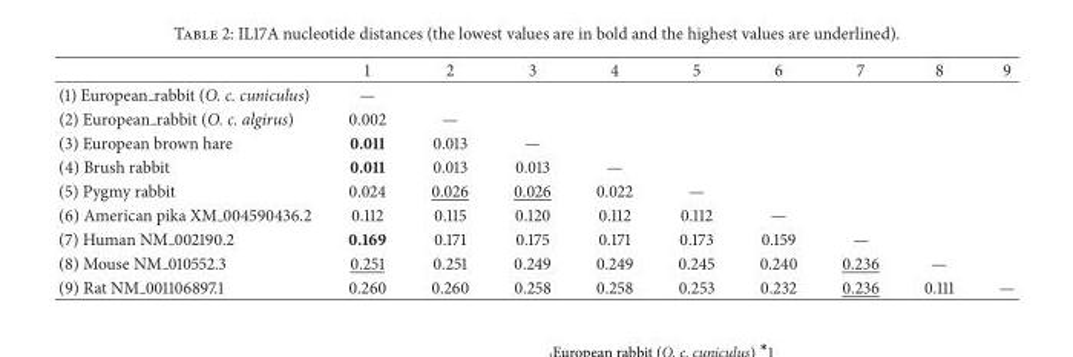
<table><thead><tr><td></td><td>1</td><td>2</td><td>3</td><td>4</td><td>5</td><td>6</td><td>7</td><td>8</td><td>9</td></tr></thead><tbody><tr><td>(1) European rabbit (O. c. cuniculus)</td><td>—</td><td></td><td></td><td></td><td></td><td></td><td></td><td></td><td></td></tr><tr><td>(2) European rabbit (O. c. algirus)</td><td>0.002</td><td>—</td><td></td><td></td><td></td><td></td><td></td><td></td><td></td></tr><tr><td>(3) European brown hare</td><td>0.011</td><td>0.013</td><td>—</td><td></td><td></td><td></td><td></td><td></td><td></td></tr><tr><td>(4) Brush rabbit</td><td>0.011</td><td>0.013</td><td>0.013</td><td>—</td><td></td><td></td><td></td><td></td><td></td></tr><tr><td>(5) Pygmy rabbit</td><td>0.024</td><td>0.026</td><td>0.026</td><td>0.022</td><td>—</td><td></td><td></td><td></td><td></td></tr><tr><td>(6) American pika XM 004590436.2</td><td>0.112</td><td>0.115</td><td>0.120</td><td>0.112</td><td>0.112</td><td>—</td><td></td><td></td><td></td></tr><tr><td>(7) Human NM 002190.2</td><td>0.169</td><td>0.171</td><td>0.175</td><td>0.171</td><td>0.173</td><td>0.159</td><td>—</td><td></td><td></td></tr><tr><td>(8) Mouse NM 010552.3</td><td>0.251</td><td>0.251</td><td>0.249</td><td>0.249</td><td>0.245</td><td>0.240</td><td>0.236</td><td>—</td><td></td></tr><tr><td>(9) Rat NM 001106897.1</td><td>0.260</td><td>0.260</td><td>0.258</td><td>0.258</td><td>0.253</td><td>0.232</td><td>0.236</td><td>0.111</td><td>—</td></tr></tbody></table>